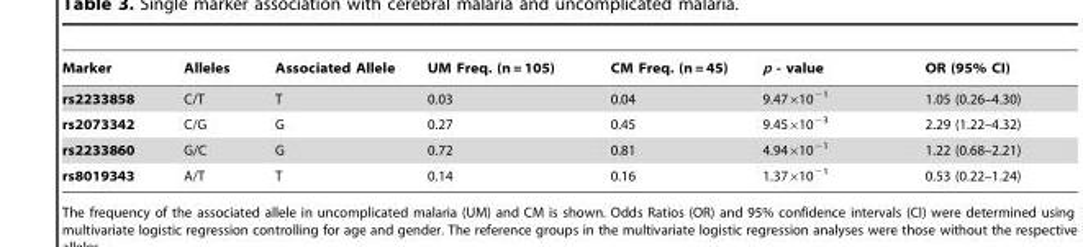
<table><thead><tr><td>Marker</td><td>Alleles</td><td>Associated Allele</td><td>UM Freq. (n = 105)</td><td>CM Freq. (n = 45)</td><td>p - value</td><td>OR (95% CI)</td></tr></thead><tbody><tr><td>rs2233858</td><td>C/T</td><td>T</td><td>0.03</td><td>0.04</td><td>9.47×10<sup>−1</sup></td><td>1.05 (0.26–4.30)</td></tr><tr><td>rs2073342</td><td>C/G</td><td>G</td><td>0.27</td><td>0.45</td><td>9.45×10<sup>−3</sup></td><td>2.29 (1.22–4.32)</td></tr><tr><td>rs2233860</td><td>G/C</td><td>G</td><td>0.72</td><td>0.81</td><td>4.94×10<sup>−1</sup></td><td>1.22 (0.68–2.21)</td></tr><tr><td>rs8019343</td><td>A/T</td><td>T</td><td>0.14</td><td>0.16</td><td>1.37×10<sup>−1</sup></td><td>0.53 (0.22–1.24)</td></tr></tbody></table>